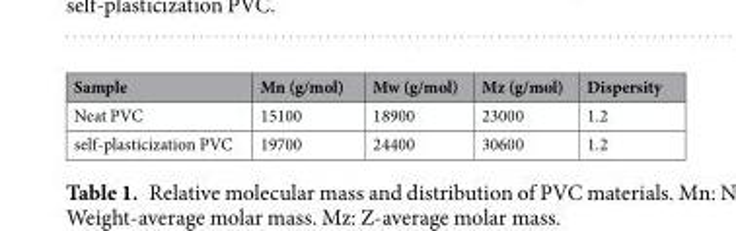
<table><thead><tr><td>Sample</td><td>Mn (g/mol)</td><td>Mw (g/mol)</td><td>Mz (g/mol)</td><td>Dispersity</td></tr></thead><tbody><tr><td>Neat PVC</td><td>15100</td><td>18900</td><td>23000</td><td>1.2</td></tr><tr><td>self-plasticization PVC</td><td>19700</td><td>24400</td><td>30600</td><td>1.2</td></tr></tbody></table>